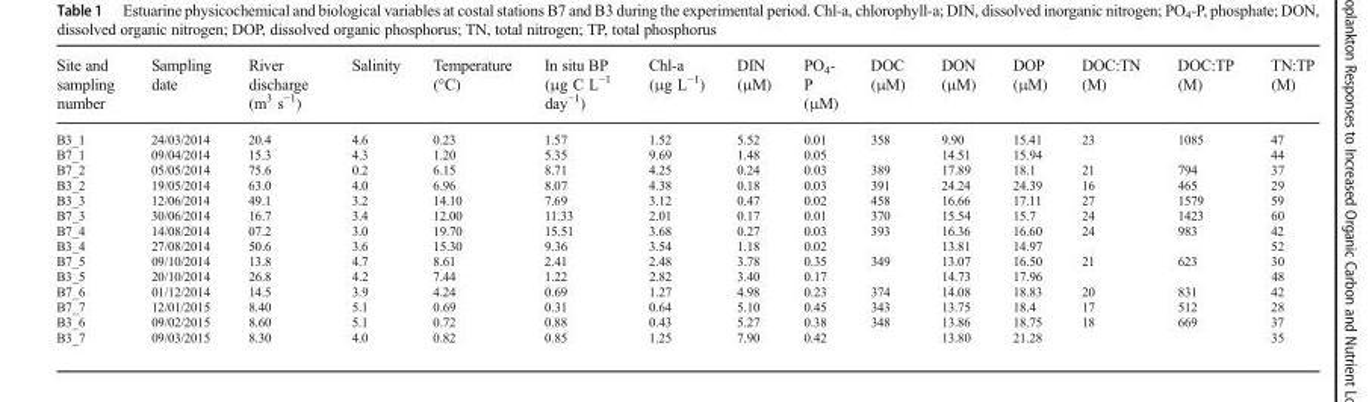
<table><thead><tr><td>Site and sampling number</td><td>Sampling date</td><td>River discharge (m<sup>3</sup> s<sup>−1</sup>)</td><td>Salinity</td><td>Temperature (°C)</td><td>In situ BP (μg C L<sup>−1</sup> day<sup>−1</sup>)</td><td>Chl-a (μg L<sup>−1</sup>)</td><td>DIN (μM)</td><td>PO<sub>4</sub>- P (μM)</td><td>DOC (μM)</td><td>DON (μM)</td><td>DOP (μM)</td><td>DOC:TN (M)</td><td>DOC:TP (M)</td><td>TN:TP (M)</td></tr></thead><tbody><tr><td>B3_1</td><td>24/03/2014</td><td>20.4</td><td>4.6</td><td>0.23</td><td>1.57</td><td>1.52</td><td>5.52</td><td>0.01</td><td>358</td><td>9.90</td><td>15.41</td><td>23</td><td>1085</td><td>47</td></tr><tr><td>B7_1</td><td>09/04/2014</td><td>15.3</td><td>4.3</td><td>1.20</td><td>5.35</td><td>9.69</td><td>1.48</td><td>0.05</td><td></td><td>14.51</td><td>15.94</td><td></td><td></td><td>44</td></tr><tr><td>B7_2</td><td>05/05/2014</td><td>75.6</td><td>0.2</td><td>6.15</td><td>8.71</td><td>4.25</td><td>0.24</td><td>0.03</td><td>389</td><td>17.89</td><td>18.1</td><td>21</td><td>794</td><td>37</td></tr><tr><td>B3_2</td><td>19/05/2014</td><td>63.0</td><td>4.0</td><td>6.96</td><td>8.07</td><td>4.38</td><td>0.18</td><td>0.03</td><td>391</td><td>24.24</td><td>24.39</td><td>16</td><td>465</td><td>29</td></tr><tr><td>B3_3</td><td>12/06/2014</td><td>49.1</td><td>3.2</td><td>14.10</td><td>7.69</td><td>3.12</td><td>0.47</td><td>0.02</td><td>458</td><td>16.66</td><td>17.11</td><td>27</td><td>1579</td><td>59</td></tr><tr><td>B7_3</td><td>30/06/2014</td><td>16.7</td><td>3.4</td><td>12.00</td><td>11.33</td><td>2.01</td><td>0.17</td><td>0.01</td><td>370</td><td>15.54</td><td>15.7</td><td>24</td><td>1423</td><td>60</td></tr><tr><td>B7_4</td><td>14/08/2014</td><td>07.2</td><td>3.0</td><td>19.70</td><td>15.51</td><td>3.68</td><td>0.27</td><td>0.03</td><td>393</td><td>16.36</td><td>16.60</td><td>24</td><td>983</td><td>42</td></tr><tr><td>B3_4</td><td>27/08/2014</td><td>50.6</td><td>3.6</td><td>15.30</td><td>9.36</td><td>3.54</td><td>1.18</td><td>0.02</td><td></td><td>13.81</td><td>14.97</td><td></td><td></td><td>52</td></tr><tr><td>B7_5</td><td>09/10/2014</td><td>13.8</td><td>4.7</td><td>8.61</td><td>2.41</td><td>2.48</td><td>3.78</td><td>0.35</td><td>349</td><td>13.07</td><td>16.50</td><td>21</td><td>623</td><td>30</td></tr><tr><td>B3_5</td><td>20/10/2014</td><td>26.8</td><td>4.2</td><td>7.44</td><td>1.22</td><td>2.82</td><td>3.40</td><td>0.17</td><td></td><td>14.73</td><td>17.96</td><td></td><td></td><td>48</td></tr><tr><td>B7_6</td><td>01/12/2014</td><td>14.5</td><td>3.9</td><td>4.24</td><td>0.69</td><td>1.27</td><td>4.98</td><td>0.23</td><td>374</td><td>14.08</td><td>18.83</td><td>20</td><td>831</td><td>42</td></tr><tr><td>B7_7</td><td>12/01/2015</td><td>8.40</td><td>5.1</td><td>0.69</td><td>0.31</td><td>0.64</td><td>5.10</td><td>0.45</td><td>343</td><td>13.75</td><td>18.4</td><td>17</td><td>512</td><td>28</td></tr><tr><td>B3_6</td><td>09/02/2015</td><td>8.60</td><td>5.1</td><td>0.72</td><td>0.88</td><td>0.43</td><td>5.27</td><td>0.38</td><td>348</td><td>13.86</td><td>18.75</td><td>18</td><td>669</td><td>37</td></tr><tr><td>B3_7</td><td>09/03/2015</td><td>8.30</td><td>4.0</td><td>0.82</td><td>0.85</td><td>1.25</td><td>7.90</td><td>0.42</td><td></td><td>13.80</td><td>21.28</td><td></td><td></td><td>35</td></tr></tbody></table>